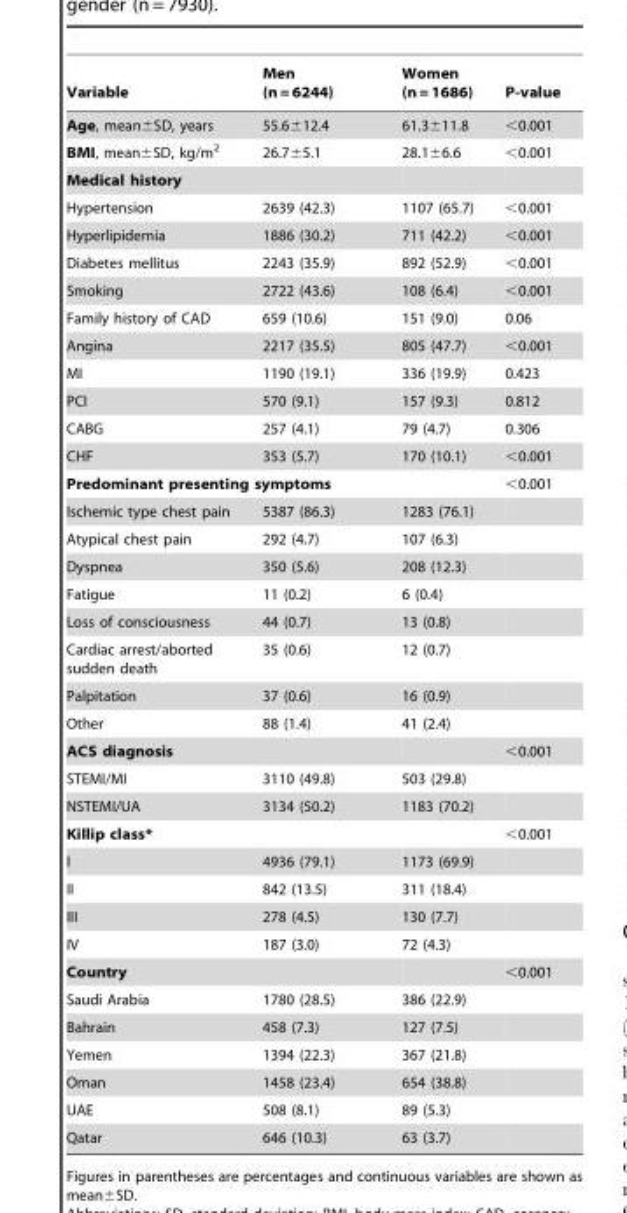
<table><thead><tr><td>Variable</td><td>Men (n = 6244)</td><td>Women (n = 1686)</td><td>P-value</td></tr></thead><tbody><tr><td>Age, mean±SD, years</td><td>55.6±12.4</td><td>61.3±11.8</td><td>&lt;0.001</td></tr><tr><td>BMI, mean±SD, kg/m<sup>2</sup></td><td>26.7±5.1</td><td>28.1±6.6</td><td>&lt;0.001</td></tr><tr><td colspan="4">Medical history</td></tr><tr><td>Hypertension</td><td>2639 (42.3)</td><td>1107 (65.7)</td><td>&lt;0.001</td></tr><tr><td>Hyperlipidemia</td><td>1886 (30.2)</td><td>711 (42.2)</td><td>&lt;0.001</td></tr><tr><td>Diabetes mellitus</td><td>2243 (35.9)</td><td>892 (52.9)</td><td>&lt;0.001</td></tr><tr><td>Smoking</td><td>2722 (43.6)</td><td>108 (6.4)</td><td>&lt;0.001</td></tr><tr><td>Family history of CAD</td><td>659 (10.6)</td><td>151 (9.0)</td><td>0.06</td></tr><tr><td>Angina</td><td>2217 (35.5)</td><td>805 (47.7)</td><td>&lt;0.001</td></tr><tr><td>MI</td><td>1190 (19.1)</td><td>336 (19.9)</td><td>0.423</td></tr><tr><td>PCI</td><td>570 (9.1)</td><td>157 (9.3)</td><td>0.812</td></tr><tr><td>CABG</td><td>257 (4.1)</td><td>79 (4.7)</td><td>0.306</td></tr><tr><td>CHF</td><td>353 (5.7)</td><td>170 (10.1)</td><td>&lt;0.001</td></tr><tr><td colspan="2">Predominant presenting symptoms</td><td></td><td>&lt;0.001</td></tr><tr><td>Ischemic type chest pain</td><td>5387 (86.3)</td><td>1283 (76.1)</td><td></td></tr><tr><td>Atypical chest pain</td><td>292 (4.7)</td><td>107 (6.3)</td><td></td></tr><tr><td>Dyspnea</td><td>350 (5.6)</td><td>208 (12.3)</td><td></td></tr><tr><td>Fatigue</td><td>11 (0.2)</td><td>6 (0.4)</td><td></td></tr><tr><td>Loss of consciousness</td><td>44 (0.7)</td><td>13 (0.8)</td><td></td></tr><tr><td>Cardiac arrest/aborted sudden death</td><td>35 (0.6)</td><td>12 (0.7)</td><td></td></tr><tr><td>Palpitation</td><td>37 (0.6)</td><td>16 (0.9)</td><td></td></tr><tr><td>Other</td><td>88 (1.4)</td><td>41 (2.4)</td><td></td></tr><tr><td>ACS diagnosis</td><td></td><td></td><td>&lt;0.001</td></tr><tr><td>STEMI/MI</td><td>3110 (49.8)</td><td>503 (29.8)</td><td></td></tr><tr><td>NSTEMI/UA</td><td>3134 (50.2)</td><td>1183 (70.2)</td><td></td></tr><tr><td>Killip class*</td><td></td><td></td><td>&lt;0.001</td></tr><tr><td>I</td><td>4936 (79.1)</td><td>1173 (69.9)</td><td></td></tr><tr><td>II</td><td>842 (13.5)</td><td>311 (18.4)</td><td></td></tr><tr><td>III</td><td>278 (4.5)</td><td>130 (7.7)</td><td></td></tr><tr><td>IV</td><td>187 (3.0)</td><td>72 (4.3)</td><td></td></tr><tr><td>Country</td><td></td><td></td><td>&lt;0.001</td></tr><tr><td>Saudi Arabia</td><td>1780 (28.5)</td><td>386 (22.9)</td><td></td></tr><tr><td>Bahrain</td><td>458 (7.3)</td><td>127 (7.5)</td><td></td></tr><tr><td>Yemen</td><td>1394 (22.3)</td><td>367 (21.8)</td><td></td></tr><tr><td>Oman</td><td>1458 (23.4)</td><td>654 (38.8)</td><td></td></tr><tr><td>UAE</td><td>508 (8.1)</td><td>89 (5.3)</td><td></td></tr><tr><td>Qatar</td><td>646 (10.3)</td><td>63 (3.7)</td><td></td></tr></tbody></table>